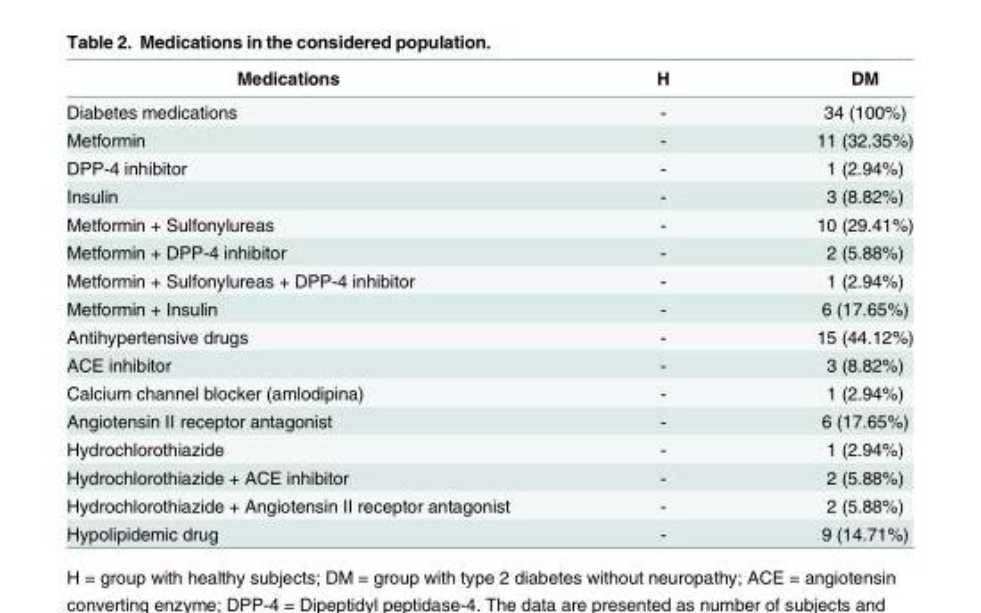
<table><thead><tr><td>Medications</td><td>H</td><td>DM</td></tr></thead><tbody><tr><td>Diabetes medications</td><td>-</td><td>34 (100%)</td></tr><tr><td>Metformin</td><td>-</td><td>11 (32.35%)</td></tr><tr><td>DPP-4 inhibitor</td><td>-</td><td>1 (2.94%)</td></tr><tr><td>Insulin</td><td>-</td><td>3 (8.82%)</td></tr><tr><td>Metformin + Sulfonylureas</td><td>-</td><td>10 (29.41%)</td></tr><tr><td>Metformin + DPP-4 inhibitor</td><td>-</td><td>2 (5.88%)</td></tr><tr><td>Metformin + Sulfonylureas + DPP-4 inhibitor</td><td>-</td><td>1 (2.94%)</td></tr><tr><td>Metformin + Insulin</td><td>-</td><td>6 (17.65%)</td></tr><tr><td>Antihypertensive drugs</td><td>-</td><td>15 (44.12%)</td></tr><tr><td>ACE inhibitor</td><td>-</td><td>3 (8.82%)</td></tr><tr><td>Calcium channel blocker (amlodipina)</td><td>-</td><td>1 (2.94%)</td></tr><tr><td>Angiotensin II receptor antagonist</td><td>-</td><td>6 (17.65%)</td></tr><tr><td>Hydrochlorothiazide</td><td>-</td><td>1 (2.94%)</td></tr><tr><td>Hydrochlorothiazide + ACE inhibitor</td><td>-</td><td>2 (5.88%)</td></tr><tr><td>Hydrochlorothiazide + Angiotensin II receptor antagonist</td><td>-</td><td>2 (5.88%)</td></tr><tr><td>Hypolipidemic drug</td><td>-</td><td>9 (14.71%)</td></tr></tbody></table>